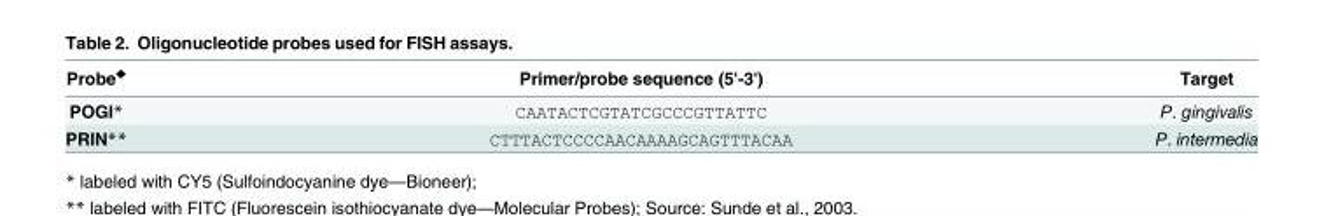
<table><thead><tr><td>Probe<sup>◆</sup></td><td>Primer/probe sequence (5&#x27;-3&#x27;)</td><td>Target</td></tr></thead><tbody><tr><td>POGI*</td><td>CAATACTCGTATCGCCCGTTATTC</td><td>P. gingivalis</td></tr><tr><td>PRIN**</td><td>CTTTACTCCCCAACAAAAGCAGTTTACAA</td><td>P. intermedia</td></tr></tbody></table>